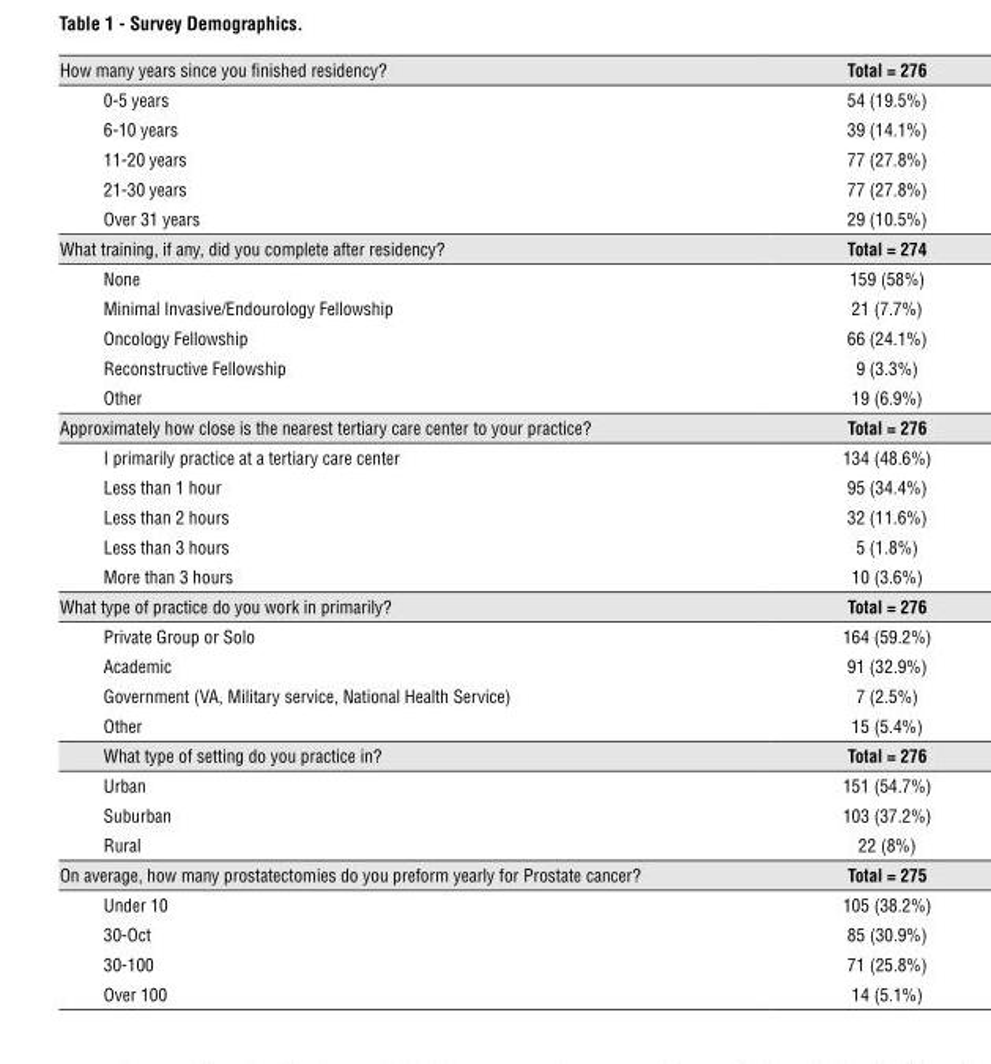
<table><thead><tr><td>How many years since you finished residency?</td><td>Total = 276</td></tr></thead><tbody><tr><td>0-5 years</td><td>54 (19.5%)</td></tr><tr><td>6-10 years</td><td>39 (14.1%)</td></tr><tr><td>11-20 years</td><td>77 (27.8%)</td></tr><tr><td>21-30 years</td><td>77 (27.8%)</td></tr><tr><td>Over 31 years</td><td>29 (10.5%)</td></tr><tr><td>What training, if any, did you complete after residency?</td><td>Total = 274</td></tr><tr><td>None</td><td>159 (58%)</td></tr><tr><td>Minimal Invasive/Endourology Fellowship</td><td>21 (7.7%)</td></tr><tr><td>Oncology Fellowship</td><td>66 (24.1%)</td></tr><tr><td>Reconstructive Fellowship</td><td>9 (3.3%)</td></tr><tr><td>Other</td><td>19 (6.9%)</td></tr><tr><td>Approximately how close is the nearest tertiary care center to your practice?</td><td>Total = 276</td></tr><tr><td>I primarily practice at a tertiary care center</td><td>134 (48.6%)</td></tr><tr><td>Less than 1 hour</td><td>95 (34.4%)</td></tr><tr><td>Less than 2 hours</td><td>32 (11.6%)</td></tr><tr><td>Less than 3 hours</td><td>5 (1.8%)</td></tr><tr><td>More than 3 hours</td><td>10 (3.6%)</td></tr><tr><td>What type of practice do you work in primarily?</td><td>Total = 276</td></tr><tr><td>Private Group or Solo</td><td>164 (59.2%)</td></tr><tr><td>Academic</td><td>91 (32.9%)</td></tr><tr><td>Government (VA, Military service, National Health Service)</td><td>7 (2.5%)</td></tr><tr><td>Other</td><td>15 (5.4%)</td></tr><tr><td>What type of setting do you practice in?</td><td>Total = 276</td></tr><tr><td>Urban</td><td>151 (54.7%)</td></tr><tr><td>Suburban</td><td>103 (37.2%)</td></tr><tr><td>Rural</td><td>22 (8%)</td></tr><tr><td>On average, how many prostatectomies do you preform yearly for Prostate cancer?</td><td>Total = 275</td></tr><tr><td>Under 10</td><td>105 (38.2%)</td></tr><tr><td>30-Oct</td><td>85 (30.9%)</td></tr><tr><td>30-100</td><td>71 (25.8%)</td></tr><tr><td>Over 100</td><td>14 (5.1%)</td></tr></tbody></table>